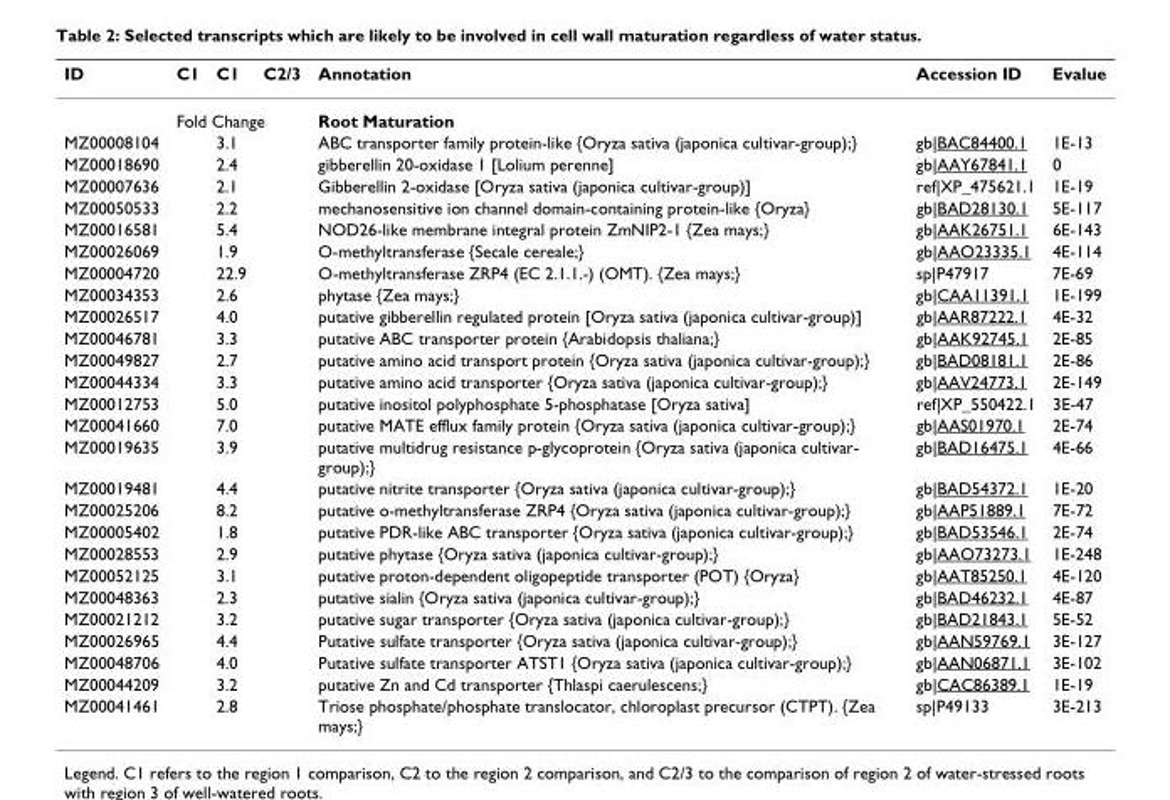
<table><thead><tr><td>ID</td><td>C1</td><td>C1</td><td>C2/3</td><td>Annotation</td><td>Accession ID</td><td>Evalue</td></tr></thead><tbody><tr><td></td><td colspan="3">Fold Change</td><td>Root Maturation</td><td></td><td></td></tr><tr><td>MZ00008104</td><td></td><td>3.1</td><td></td><td>ABC transporter family protein-like {Oryza sativa (japonica cultivar-group);}</td><td>gb|BAC84400.1</td><td>1E-13</td></tr><tr><td>MZ00018690</td><td></td><td>2.4</td><td></td><td>gibberellin 20-oxidase 1 [Lolium perenne]</td><td>gb|AAY67841.1</td><td>0</td></tr><tr><td>MZ00007636</td><td></td><td>2.1</td><td></td><td>Gibberellin 2-oxidase [Oryza sativa (japonica cultivar-group)]</td><td>ref|XP_475621.1</td><td>1E-19</td></tr><tr><td>MZ00050533</td><td></td><td>2.2</td><td></td><td>mechanosensitive ion channel domain-containing protein-like {Oryza}</td><td>gb|BAD28130.1</td><td>5E-117</td></tr><tr><td>MZ00016581</td><td></td><td>5.4</td><td></td><td>NOD26-like membrane integral protein ZmNIP2-1 {Zea mays;}</td><td>gb|AAK26751.1</td><td>6E-143</td></tr><tr><td>MZ00026069</td><td></td><td>1.9</td><td></td><td>O-methyltransferase {Secale cereale;}</td><td>gb|AAO23335.1</td><td>4E-114</td></tr><tr><td>MZ00004720</td><td></td><td>22.9</td><td></td><td>O-methyltransferase ZRP4 (EC 2.1.1.-) (OMT). {Zea mays;}</td><td>sp|P47917</td><td>7E-69</td></tr><tr><td>MZ00034353</td><td></td><td>2.6</td><td></td><td>phytase {Zea mays;}</td><td>gb|CAA11391.1</td><td>1E-199</td></tr><tr><td>MZ00026517</td><td></td><td>4.0</td><td></td><td>putative gibberellin regulated protein [Oryza sativa (japonica cultivar-group)]</td><td>gb|AAR87222.1</td><td>4E-32</td></tr><tr><td>MZ00046781</td><td></td><td>3.3</td><td></td><td>putative ABC transporter protein {Arabidopsis thaliana;}</td><td>gb|AAK92745.1</td><td>2E-85</td></tr><tr><td>MZ00049827</td><td></td><td>2.7</td><td></td><td>putative amino acid transport protein {Oryza sativa (japonica cultivar-group);}</td><td>gb|BAD08181.1</td><td>2E-86</td></tr><tr><td>MZ00044334</td><td></td><td>3.3</td><td></td><td>putative amino acid transporter {Oryza sativa (japonica cultivar-group);}</td><td>gb|AAV24773.1</td><td>2E-149</td></tr><tr><td>MZ00012753</td><td></td><td>5.0</td><td></td><td>putative inositol polyphosphate 5-phosphatase [Oryza sativa]</td><td>ref|XP_550422.1</td><td>3E-47</td></tr><tr><td>MZ00041660</td><td></td><td>7.0</td><td></td><td>putative MATE efflux family protein {Oryza sativa (japonica cultivar-group);}</td><td>gb|AAS01970.1</td><td>2E-74</td></tr><tr><td>MZ00019635</td><td></td><td>3.9</td><td></td><td>putative multidrug resistance p-glycoprotein {Oryza sativa (japonica cultivar- group);}</td><td>gb|BAD16475.1</td><td>4E-66</td></tr><tr><td>MZ00019481</td><td></td><td>4.4</td><td></td><td>putative nitrite transporter {Oryza sativa (japonica cultivar-group);}</td><td>gb|BAD54372.1</td><td>1E-20</td></tr><tr><td>MZ00025206</td><td></td><td>8.2</td><td></td><td>putative o-methyltransferase ZRP4 {Oryza sativa (japonica cultivar-group);}</td><td>gb|AAP51889.1</td><td>7E-72</td></tr><tr><td>MZ00005402</td><td></td><td>1.8</td><td></td><td>putative PDR-like ABC transporter {Oryza sativa (japonica cultivar-group);}</td><td>gb|BAD53546.1</td><td>2E-74</td></tr><tr><td>MZ00028553</td><td></td><td>2.9</td><td></td><td>putative phytase {Oryza sativa (japonica cultivar-group);}</td><td>gb|AAO73273.1</td><td>1E-248</td></tr><tr><td>MZ00052125</td><td></td><td>3.1</td><td></td><td>putative proton-dependent oligopeptide transporter (POT) {Oryza}</td><td>gb|AAT85250.1</td><td>4E-120</td></tr><tr><td>MZ00048363</td><td></td><td>2.3</td><td></td><td>putative sialin {Oryza sativa (japonica cultivar-group);}</td><td>gb|BAD46232.1</td><td>4E-87</td></tr><tr><td>MZ00021212</td><td></td><td>3.2</td><td></td><td>putative sugar transporter {Oryza sativa (japonica cultivar-group);}</td><td>gb|BAD21843.1</td><td>5E-52</td></tr><tr><td>MZ00026965</td><td></td><td>4.4</td><td></td><td>Putative sulfate transporter {Oryza sativa (japonica cultivar-group);}</td><td>gb|AAN59769.1</td><td>3E-127</td></tr><tr><td>MZ00048706</td><td></td><td>4.0</td><td></td><td>Putative sulfate transporter ATST1 {Oryza sativa (japonica cultivar-group);}</td><td>gb|AAN06871.1</td><td>3E-102</td></tr><tr><td>MZ00044209</td><td></td><td>3.2</td><td></td><td>putative Zn and Cd transporter {Thlaspi caerulescens;}</td><td>gb|CAC86389.1</td><td>1E-19</td></tr><tr><td>MZ00041461</td><td></td><td>2.8</td><td></td><td>Triose phosphate/phosphate translocator, chloroplast precursor (CTPT). {Zea mays;}</td><td>sp|P49133</td><td>3E-213</td></tr></tbody></table>